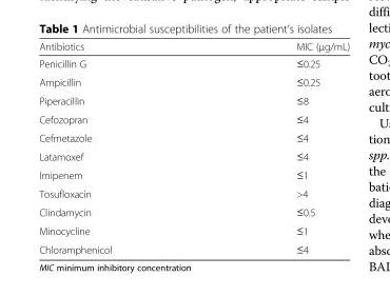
<table><thead><tr><td>Antibiotics</td><td>MIC (μg/mL)</td></tr></thead><tbody><tr><td>Penicillin G</td><td>≤0.25</td></tr><tr><td>Ampicillin</td><td>≤0.25</td></tr><tr><td>Piperacillin</td><td>≤8</td></tr><tr><td>Cefozopran</td><td>≤4</td></tr><tr><td>Cefmetazole</td><td>≤4</td></tr><tr><td>Latamoxef</td><td>≤4</td></tr><tr><td>Imipenem</td><td>≤1</td></tr><tr><td>Tosufloxacin</td><td>&gt;4</td></tr><tr><td>Clindamycin</td><td>≤0.5</td></tr><tr><td>Minocycline</td><td>≤1</td></tr><tr><td>Chloramphenicol</td><td>≤4</td></tr></tbody></table>